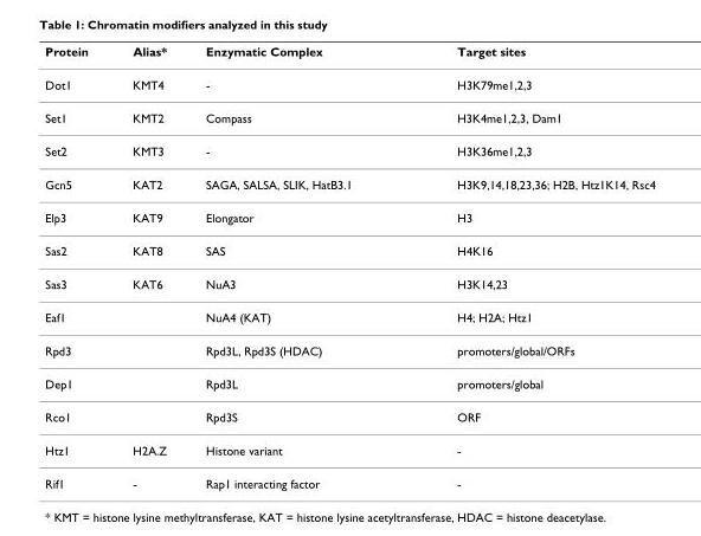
<table><thead><tr><td>Protein</td><td>Alias*</td><td>Enzymatic Complex</td><td>Target sites</td></tr></thead><tbody><tr><td>Dot1</td><td>KMT4</td><td>-</td><td>H3K79me1,2,3</td></tr><tr><td>Set1</td><td>KMT2</td><td>Compass</td><td>H3K4me1,2,3, Dam1</td></tr><tr><td>Set2</td><td>KMT3</td><td>-</td><td>H3K36me1,2,3</td></tr><tr><td>Gcn5</td><td>KAT2</td><td>SAGA, SALSA, SLIK, HatB3.1</td><td>H3K9,14,18,23,36; H2B, Htz1K14, Rsc4</td></tr><tr><td>Elp3</td><td>KAT9</td><td>Elongator</td><td>H3</td></tr><tr><td>Sas2</td><td>KAT8</td><td>SAS</td><td>H4K16</td></tr><tr><td>Sas3</td><td>KAT6</td><td>NuA3</td><td>H3K14,23</td></tr><tr><td>Eaf1</td><td></td><td>NuA4 (KAT)</td><td>H4; H2A; Htz1</td></tr><tr><td>Rpd3</td><td></td><td>Rpd3L, Rpd3S (HDAC)</td><td>promoters/global/ORFs</td></tr><tr><td>Dep1</td><td></td><td>Rpd3L</td><td>promoters/global</td></tr><tr><td>Rco1</td><td></td><td>Rpd3S</td><td>ORF</td></tr><tr><td>Htz1</td><td>H2A.Z</td><td>Histone variant</td><td>-</td></tr><tr><td>Rif1</td><td>-</td><td>Rap1 interacting factor</td><td>-</td></tr></tbody></table>